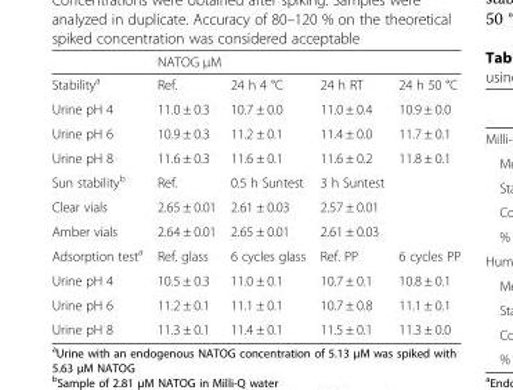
<table><thead><tr><td rowspan="2">Stability<sup>a</sup></td><td colspan="4">NATOG μM</td></tr><tr><td>Ref.</td><td>24 h 4 °C</td><td>24 h RT</td><td>24 h 50 °C</td></tr></thead><tbody><tr><td>Urine pH 4</td><td>11.0 ± 0.3</td><td>10.7 ± 0.0</td><td>11.0 ± 0.4</td><td>10.9 ± 0.0</td></tr><tr><td>Urine pH 6</td><td>10.9 ± 0.3</td><td>11.2 ± 0.1</td><td>11.4 ± 0.0</td><td>11.7 ± 0.1</td></tr><tr><td>Urine pH 8</td><td>11.6 ± 0.3</td><td>11.6 ± 0.1</td><td>11.6 ± 0.2</td><td>11.8 ± 0.1</td></tr><tr><td>Sun stability<sup>b</sup></td><td>Ref.</td><td>0.5 h Suntest</td><td>3 h Suntest</td><td></td></tr><tr><td>Clear vials</td><td>2.65 ± 0.01</td><td>2.61 ± 0.03</td><td>2.57 ± 0.01</td><td></td></tr><tr><td>Amber vials</td><td>2.64 ± 0.01</td><td>2.65 ± 0.01</td><td>2.61 ± 0.03</td><td></td></tr><tr><td>Adsorption test<sup>a</sup></td><td>Ref. glass</td><td>6 cycles glass</td><td>Ref. PP</td><td>6 cycles PP</td></tr><tr><td>Urine pH 4</td><td>10.5 ± 0.3</td><td>11.0 ± 0.1</td><td>10.7 ± 0.1</td><td>10.8 ± 0.1</td></tr><tr><td>Urine pH 6</td><td>11.2 ± 0.1</td><td>11.1 ± 0.1</td><td>10.7 ± 0.8</td><td>11.1 ± 0.1</td></tr><tr><td>Urine pH 8</td><td>11.3 ± 0.1</td><td>11.4 ± 0.1</td><td>11.5 ± 0.1</td><td>11.3 ± 0.0</td></tr></tbody></table>